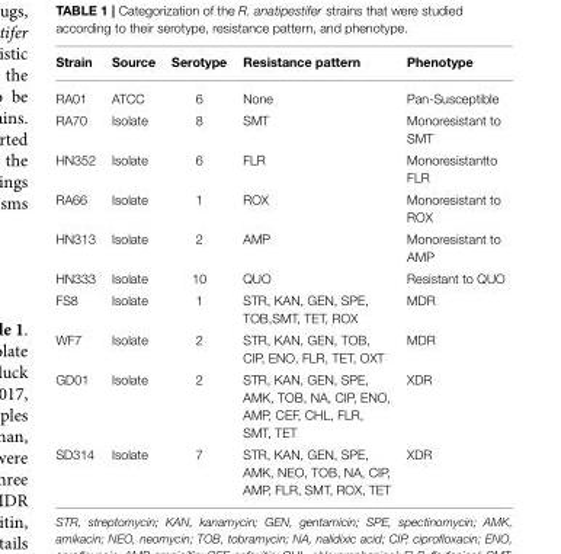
<table><thead><tr><td>Strain</td><td>Source</td><td>Serotype</td><td>Resistance pattern</td><td>Phenotype</td></tr></thead><tbody><tr><td>RA01</td><td>ATCC</td><td>6</td><td>None</td><td>Pan-Susceptible</td></tr><tr><td>RA70</td><td>Isolate</td><td>8</td><td>SMT</td><td>Monoresistant to SMT</td></tr><tr><td>HN352</td><td>Isolate</td><td>6</td><td>FLR</td><td>Monoresistantto FLR</td></tr><tr><td>RA66</td><td>Isolate</td><td>1</td><td>ROX</td><td>Monoresistant to ROX</td></tr><tr><td>HN313</td><td>Isolate</td><td>2</td><td>AMP</td><td>Monoresistant to AMP</td></tr><tr><td>HN333</td><td>Isolate</td><td>10</td><td>QUO</td><td>Resistant to QUO</td></tr><tr><td>FS8</td><td>Isolate</td><td>1</td><td>STR, KAN, GEN, SPE, TOB,SMT, TET, ROX</td><td>MDR</td></tr><tr><td>WF7</td><td>Isolate</td><td>2</td><td>STR, KAN, GEN, TOB, CIP, ENO, FLR, TET, OXT</td><td>MDR</td></tr><tr><td>GD01</td><td>Isolate</td><td>2</td><td>STR, KAN, GEN, SPE, AMK, TOB, NA, CIP, ENO, AMP, CEF, CHL, FLR, SMT, TET</td><td>XDR</td></tr><tr><td>SD314</td><td>Isolate</td><td>7</td><td>STR, KAN, GEN, SPE, AMK, NEO, TOB, NA, CIP, AMP, FLR, SMT, ROX, TET</td><td>XDR</td></tr></tbody></table>